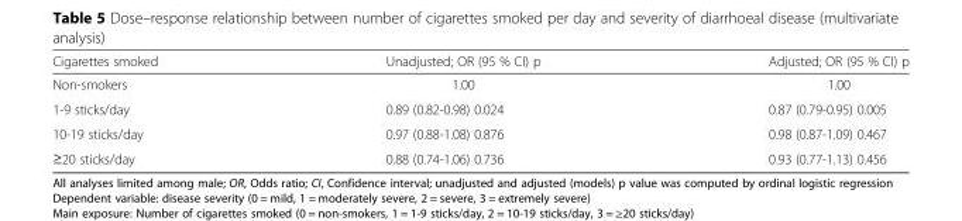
<table><thead><tr><td>Cigarettes smoked</td><td>Unadjusted; OR (95 % CI) p</td><td>Adjusted; OR (95 % CI) p</td></tr></thead><tbody><tr><td>Non-smokers</td><td>1.00</td><td>1.00</td></tr><tr><td>1-9 sticks/day</td><td>0.89 (0.82-0.98) 0.024</td><td>0.87 (0.79-0.95) 0.005</td></tr><tr><td>10-19 sticks/day</td><td>0.97 (0.88-1.08) 0.876</td><td>0.98 (0.87-1.09) 0.467</td></tr><tr><td>≥20 sticks/day</td><td>0.88 (0.74-1.06) 0.736</td><td>0.93 (0.77-1.13) 0.456</td></tr></tbody></table>